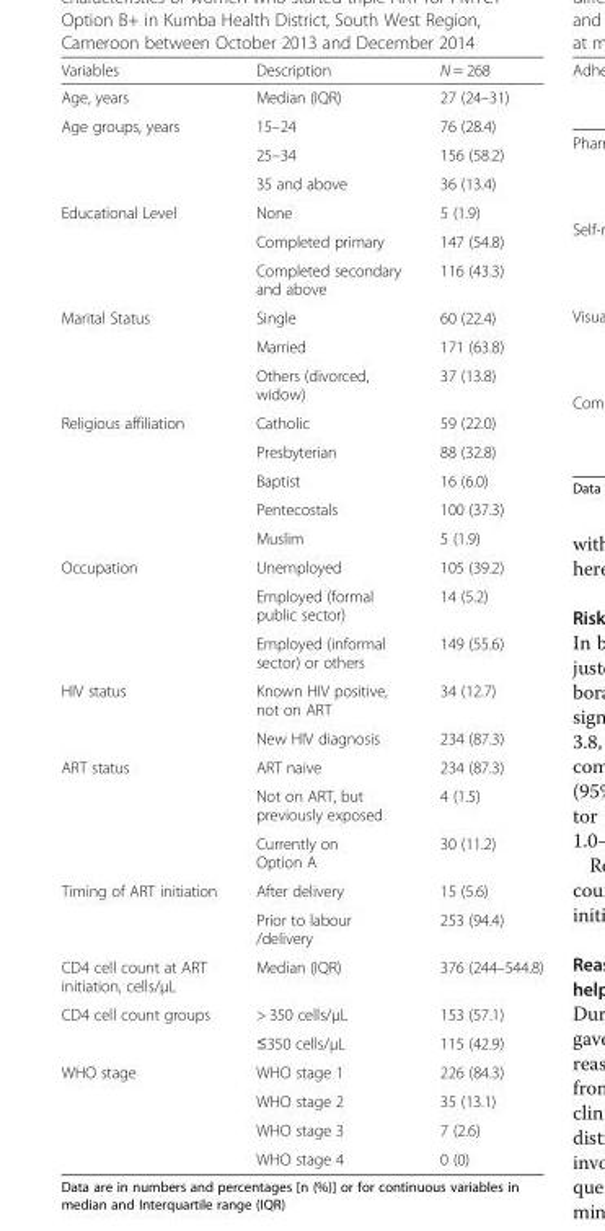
<table><thead><tr><td>Variables</td><td>Description</td><td>N = 268</td></tr></thead><tbody><tr><td>Age, years</td><td>Median (IQR)</td><td>27 (24–31)</td></tr><tr><td rowspan="3">Age groups, years</td><td>15–24</td><td>76 (28.4)</td></tr><tr><td>25–34</td><td>156 (58.2)</td></tr><tr><td>35 and above</td><td>36 (13.4)</td></tr><tr><td rowspan="3">Educational Level</td><td>None</td><td>5 (1.9)</td></tr><tr><td>Completed primary</td><td>147 (54.8)</td></tr><tr><td>Completed secondary and above</td><td>116 (43.3)</td></tr><tr><td rowspan="3">Marital Status</td><td>Single</td><td>60 (22.4)</td></tr><tr><td>Married</td><td>171 (63.8)</td></tr><tr><td>Others (divorced, widow)</td><td>37 (13.8)</td></tr><tr><td rowspan="5">Religious affiliation</td><td>Catholic</td><td>59 (22.0)</td></tr><tr><td>Presbyterian</td><td>88 (32.8)</td></tr><tr><td>Baptist</td><td>16 (6.0)</td></tr><tr><td>Pentecostals</td><td>100 (37.3)</td></tr><tr><td>Muslim</td><td>5 (1.9)</td></tr><tr><td rowspan="3">Occupation</td><td>Unemployed</td><td>105 (39.2)</td></tr><tr><td>Employed (formal public sector)</td><td>14 (5.2)</td></tr><tr><td>Employed (informal sector) or others</td><td>149 (55.6)</td></tr><tr><td rowspan="2">HIV status</td><td>Known HIV positive, not on ART</td><td>34 (12.7)</td></tr><tr><td>New HIV diagnosis</td><td>234 (87.3)</td></tr><tr><td rowspan="3">ART status</td><td>ART naive</td><td>234 (87.3)</td></tr><tr><td>Not on ART, but previously exposed</td><td>4 (1.5)</td></tr><tr><td>Currently on Option A</td><td>30 (11.2)</td></tr><tr><td rowspan="2">Timing of ART initiation</td><td>After delivery</td><td>15 (5.6)</td></tr><tr><td>Prior to labour /delivery</td><td>253 (94.4)</td></tr><tr><td>CD4 cell count at ART initiation, cells/μL</td><td>Median (IQR)</td><td>376 (244–544.8)</td></tr><tr><td rowspan="2">CD4 cell count groups</td><td>&gt; 350 cells/μL</td><td>153 (57.1)</td></tr><tr><td>≤350 cells/μL</td><td>115 (42.9)</td></tr><tr><td rowspan="4">WHO stage</td><td>WHO stage 1</td><td>226 (84.3)</td></tr><tr><td>WHO stage 2</td><td>35 (13.1)</td></tr><tr><td>WHO stage 3</td><td>7 (2.6)</td></tr><tr><td>WHO stage 4</td><td>0 (0)</td></tr></tbody></table>